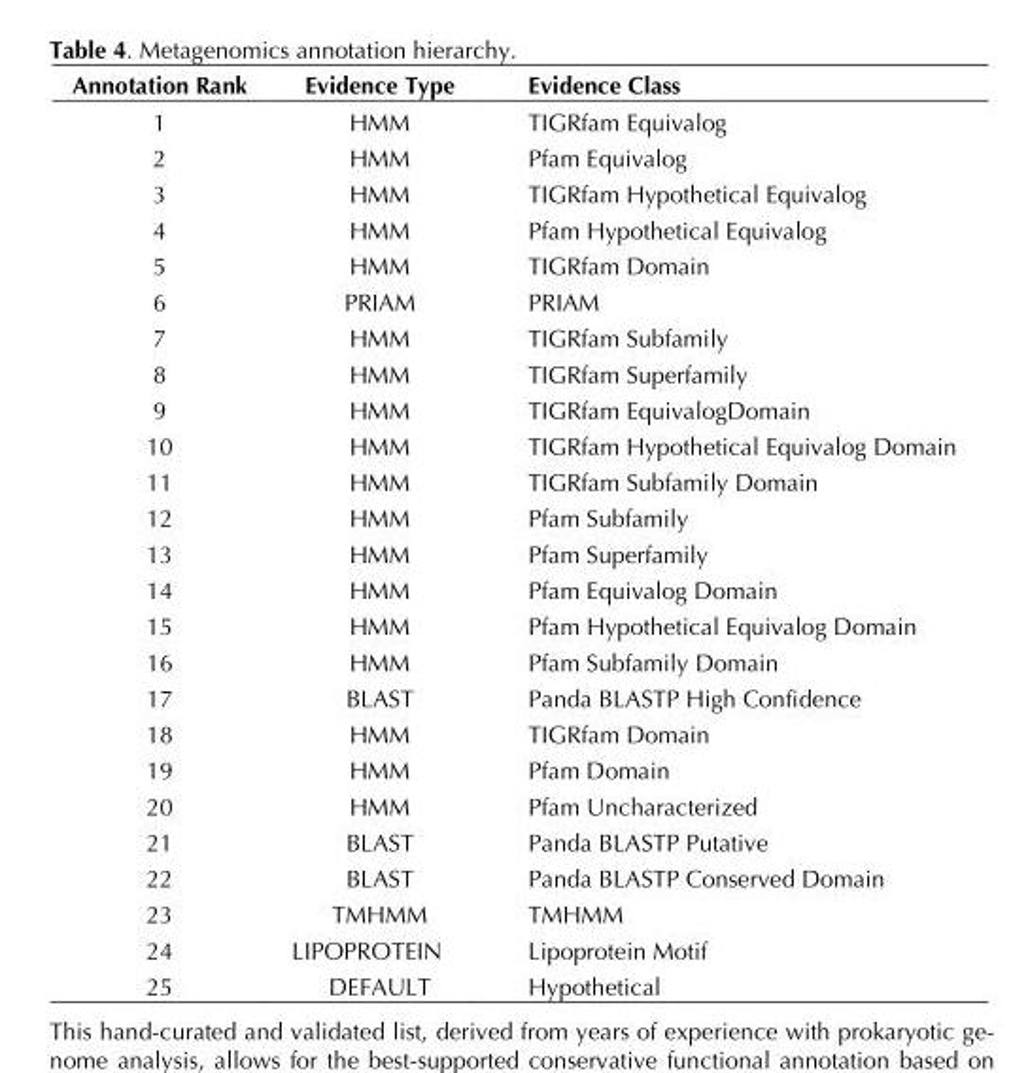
<table><thead><tr><td>Annotation Rank</td><td>Evidence Type</td><td>Evidence Class</td></tr></thead><tbody><tr><td>1</td><td>HMM</td><td>TIGRfam Equivalog</td></tr><tr><td>2</td><td>HMM</td><td>Pfam Equivalog</td></tr><tr><td>3</td><td>HMM</td><td>TIGRfam Hypothetical Equivalog</td></tr><tr><td>4</td><td>HMM</td><td>Pfam Hypothetical Equivalog</td></tr><tr><td>5</td><td>HMM</td><td>TIGRfam Domain</td></tr><tr><td>6</td><td>PRIAM</td><td>PRIAM</td></tr><tr><td>7</td><td>HMM</td><td>TIGRfam Subfamily</td></tr><tr><td>8</td><td>HMM</td><td>TIGRfam Superfamily</td></tr><tr><td>9</td><td>HMM</td><td>TIGRfam EquivalogDomain</td></tr><tr><td>10</td><td>HMM</td><td>TIGRfam Hypothetical Equivalog Domain</td></tr><tr><td>11</td><td>HMM</td><td>TIGRfam Subfamily Domain</td></tr><tr><td>12</td><td>HMM</td><td>Pfam Subfamily</td></tr><tr><td>13</td><td>HMM</td><td>Pfam Superfamily</td></tr><tr><td>14</td><td>HMM</td><td>Pfam Equivalog Domain</td></tr><tr><td>15</td><td>HMM</td><td>Pfam Hypothetical Equivalog Domain</td></tr><tr><td>16</td><td>HMM</td><td>Pfam Subfamily Domain</td></tr><tr><td>17</td><td>BLAST</td><td>Panda BLASTP High Confidence</td></tr><tr><td>18</td><td>HMM</td><td>TIGRfam Domain</td></tr><tr><td>19</td><td>HMM</td><td>Pfam Domain</td></tr><tr><td>20</td><td>HMM</td><td>Pfam Uncharacterized</td></tr><tr><td>21</td><td>BLAST</td><td>Panda BLASTP Putative</td></tr><tr><td>22</td><td>BLAST</td><td>Panda BLASTP Conserved Domain</td></tr><tr><td>23</td><td>TMHMM</td><td>TMHMM</td></tr><tr><td>24</td><td>LIPOPROTEIN</td><td>Lipoprotein Motif</td></tr><tr><td>25</td><td>DEFAULT</td><td>Hypothetical</td></tr></tbody></table>